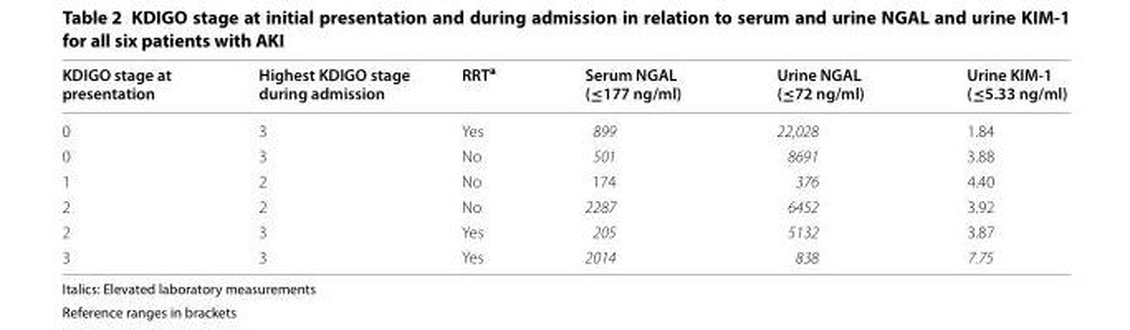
<table><thead><tr><td>KDIGO stage at presentation</td><td>Highest KDIGO stage during admission</td><td>RRT<sup>a</sup></td><td>Serum NGAL (≤177 ng/ml)</td><td>Urine NGAL (≤72 ng/ml)</td><td>Urine KIM‑1 (≤5.33 ng/ml)</td></tr></thead><tbody><tr><td>0</td><td>3</td><td>Yes</td><td>899</td><td>22,028</td><td>1.84</td></tr><tr><td>0</td><td>3</td><td>No</td><td>501</td><td>8691</td><td>3.88</td></tr><tr><td>1</td><td>2</td><td>No</td><td>174</td><td>376</td><td>4.40</td></tr><tr><td>2</td><td>2</td><td>No</td><td>2287</td><td>6452</td><td>3.92</td></tr><tr><td>2</td><td>3</td><td>Yes</td><td>205</td><td>5132</td><td>3.87</td></tr><tr><td>3</td><td>3</td><td>Yes</td><td>2014</td><td>838</td><td>7.75</td></tr></tbody></table>